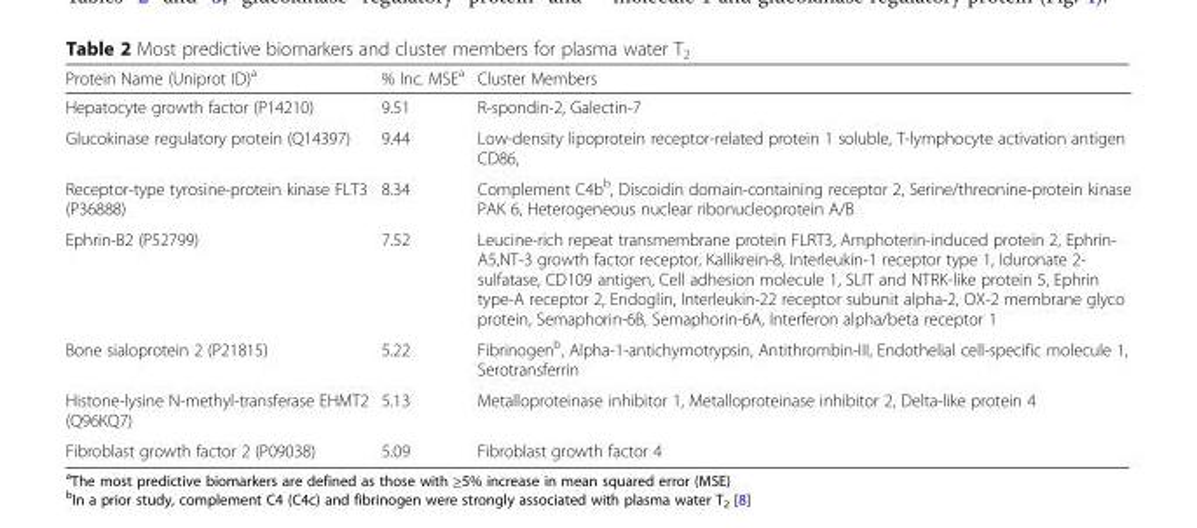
<table><thead><tr><td>Protein Name (Uniprot ID)<sup>a</sup></td><td>% Inc. MSE<sup>a</sup></td><td>Cluster Members</td></tr></thead><tbody><tr><td>Hepatocyte growth factor (P14210)</td><td>9.51</td><td>R-spondin-2, Galectin-7</td></tr><tr><td>Glucokinase regulatory protein (Q14397)</td><td>9.44</td><td>Low-density lipoprotein receptor-related protein 1 soluble, T-lymphocyte activation antigen CD86,</td></tr><tr><td>Receptor-type tyrosine-protein kinase FLT3 (P36888)</td><td>8.34</td><td>Complement C4b<sup>b</sup>, Discoidin domain-containing receptor 2, Serine/threonine-protein kinase PAK 6, Heterogeneous nuclear ribonucleoprotein A/B</td></tr><tr><td>Ephrin-B2 (P52799)</td><td>7.52</td><td>Leucine-rich repeat transmembrane protein FLRT3, Amphoterin-induced protein 2, Ephrin- A5,NT-3 growth factor receptor, Kallikrein-8, Interleukin-1 receptor type 1, Iduronate 2- sulfatase, CD109 antigen, Cell adhesion molecule 1, SLIT and NTRK-like protein 5, Ephrin type-A receptor 2, Endoglin, Interleukin-22 receptor subunit alpha-2, OX-2 membrane glyco protein, Semaphorin-6B, Semaphorin-6A, Interferon alpha/beta receptor 1</td></tr><tr><td>Bone sialoprotein 2 (P21815)</td><td>5.22</td><td>Fibrinogen<sup>b</sup>, Alpha-1-antichymotrypsin, Antithrombin-III, Endothelial cell-specific molecule 1, Serotransferrin</td></tr><tr><td>Histone-lysine N-methyl-transferase EHMT2 (Q96KQ7)</td><td>5.13</td><td>Metalloproteinase inhibitor 1, Metalloproteinase inhibitor 2, Delta-like protein 4</td></tr><tr><td>Fibroblast growth factor 2 (P09038)</td><td>5.09</td><td>Fibroblast growth factor 4</td></tr></tbody></table>